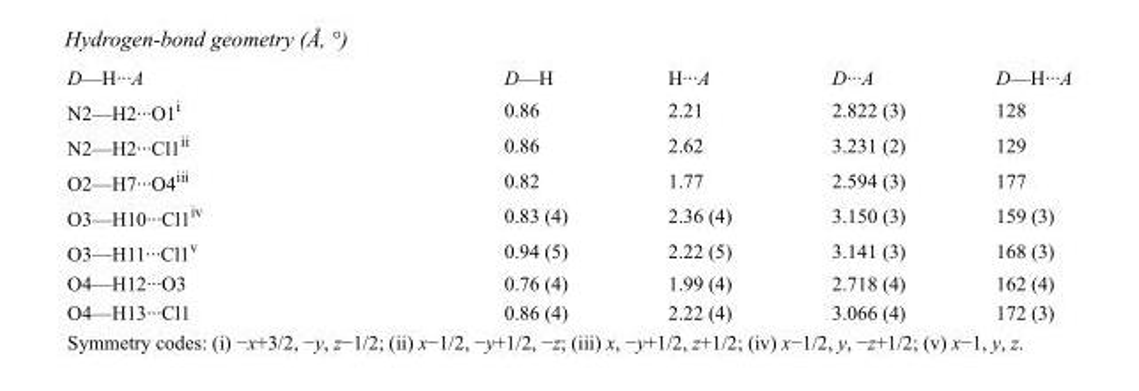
<table><tbody><tr><td>D—H···A</td><td>D—H</td><td>H···A</td><td>D···A</td><td>D—H···A</td></tr><tr><td>N2—H2···O1<sup>i</sup></td><td>0.86</td><td>2.21</td><td>2.822 (3)</td><td>128</td></tr><tr><td>N2—H2···Cl1<sup>ii</sup></td><td>0.86</td><td>2.62</td><td>3.231 (2)</td><td>129</td></tr><tr><td>O2—H7···O4<sup>iii</sup></td><td>0.82</td><td>1.77</td><td>2.594 (3)</td><td>177</td></tr><tr><td>O3—H10···Cl1<sup>iv</sup></td><td>0.83 (4)</td><td>2.36 (4)</td><td>3.150 (3)</td><td>159 (3)</td></tr><tr><td>O3—H11···Cl1<sup>v</sup></td><td>0.94 (5)</td><td>2.22 (5)</td><td>3.141 (3)</td><td>168 (3)</td></tr><tr><td>O4—H12···O3</td><td>0.76 (4)</td><td>1.99 (4)</td><td>2.718 (4)</td><td>162 (4)</td></tr><tr><td>O4—H13···Cl1</td><td>0.86 (4)</td><td>2.22 (4)</td><td>3.066 (4)</td><td>172 (3)</td></tr></tbody></table>